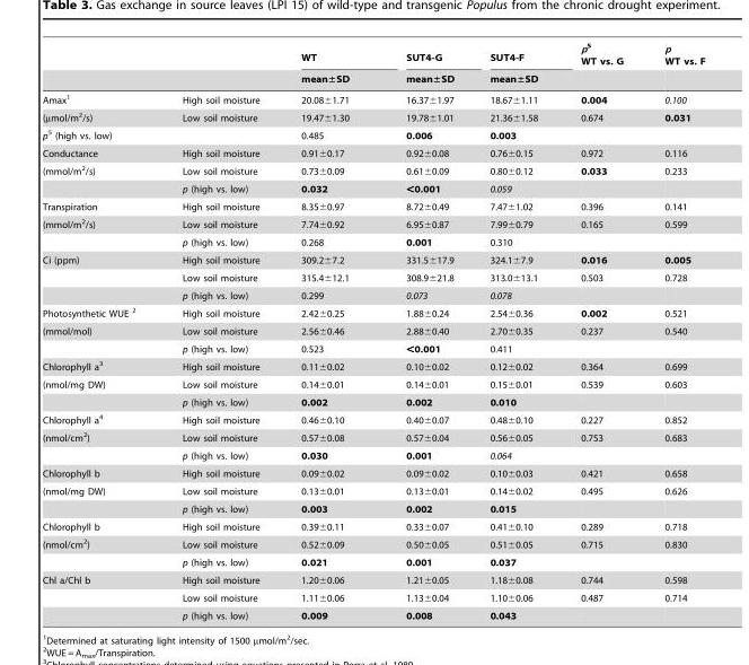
<table><thead><tr><td rowspan="2"></td><td rowspan="2"></td><td rowspan="2">WT mean±SD</td><td rowspan="2">SUT4-G mean±SD</td><td rowspan="2">SUT4-F mean±SD</td><td rowspan="2">p5 WT vs. G</td><td rowspan="2">p WT vs. F</td></tr><tr></tr></thead><tbody><tr><td>Amax<sup>1</sup></td><td>High soil moisture</td><td>20.08±1.71</td><td>16.37±1.97</td><td>18.67±1.11</td><td>0.004</td><td>0.100</td></tr><tr><td>(µmol/m<sup>2</sup>/s)</td><td>Low soil moisture</td><td>19.47±1.30</td><td>19.78±1.01</td><td>21.36±1.58</td><td>0.674</td><td>0.031</td></tr><tr><td colspan="2">p5 (high vs. low)</td><td>0.485</td><td>0.006</td><td>0.003</td><td></td><td></td></tr><tr><td>Conductance</td><td>High soil moisture</td><td>0.91±0.17</td><td>0.92±0.08</td><td>0.76±0.15</td><td>0.972</td><td>0.116</td></tr><tr><td rowspan="2">(mmol/m<sup>2</sup>/s)</td><td>Low soil moisture</td><td>0.73±0.09</td><td>0.61±0.09</td><td>0.80±0.12</td><td>0.033</td><td>0.233</td></tr><tr><td>p (high vs. low)</td><td>0.032</td><td>&lt;0.001</td><td>0.059</td><td></td><td></td></tr><tr><td>Transpiration</td><td>High soil moisture</td><td>8.35±0.97</td><td>8.72±0.49</td><td>7.47±1.02</td><td>0.396</td><td>0.141</td></tr><tr><td rowspan="2">(mmol/m<sup>2</sup>/s)</td><td>Low soil moisture</td><td>7.74±0.92</td><td>6.95±0.87</td><td>7.99±0.79</td><td>0.165</td><td>0.599</td></tr><tr><td>p (high vs. low)</td><td>0.268</td><td>0.001</td><td>0.310</td><td></td><td></td></tr><tr><td rowspan="3">Ci (ppm)</td><td>High soil moisture</td><td>309.2±7.2</td><td>331.5±17.9</td><td>324.1±7.9</td><td>0.016</td><td>0.005</td></tr><tr><td>Low soil moisture</td><td>315.4±12.1</td><td>308.9±21.8</td><td>313.0±13.1</td><td>0.503</td><td>0.728</td></tr><tr><td>p (high vs. low)</td><td>0.299</td><td>0.073</td><td>0.078</td><td></td><td></td></tr><tr><td>Photosynthetic WUE 2</td><td>High soil moisture</td><td>2.42±0.25</td><td>1.88±0.24</td><td>2.54±0.36</td><td>0.002</td><td>0.521</td></tr><tr><td rowspan="2">(mmol/mol)</td><td>Low soil moisture</td><td>2.56±0.46</td><td>2.88±0.40</td><td>2.70±0.35</td><td>0.237</td><td>0.540</td></tr><tr><td>p (high vs. low)</td><td>0.523</td><td>&lt;0.001</td><td>0.411</td><td></td><td></td></tr><tr><td>Chlorophyll a<sup>3</sup></td><td>High soil moisture</td><td>0.11±0.02</td><td>0.10±0.02</td><td>0.12±0.02</td><td>0.364</td><td>0.699</td></tr><tr><td rowspan="2">(nmol/mg DW)</td><td>Low soil moisture</td><td>0.14±0.01</td><td>0.14±0.01</td><td>0.15±0.01</td><td>0.539</td><td>0.603</td></tr><tr><td>p (high vs. low)</td><td>0.002</td><td>0.002</td><td>0.010</td><td></td><td></td></tr><tr><td>Chlorophyll a<sup>4</sup></td><td>High soil moisture</td><td>0.46±0.10</td><td>0.40±0.07</td><td>0.48±0.10</td><td>0.227</td><td>0.852</td></tr><tr><td rowspan="2">(nmol/cm<sup>2</sup>)</td><td>Low soil moisture</td><td>0.57±0.08</td><td>0.57±0.04</td><td>0.56±0.05</td><td>0.753</td><td>0.683</td></tr><tr><td>p (high vs. low)</td><td>0.030</td><td>0.001</td><td>0.064</td><td></td><td></td></tr><tr><td>Chlorophyll b</td><td>High soil moisture</td><td>0.09±0.02</td><td>0.09±0.02</td><td>0.10±0.03</td><td>0.421</td><td>0.658</td></tr><tr><td rowspan="2">(nmol/mg DW)</td><td>Low soil moisture</td><td>0.13±0.01</td><td>0.13±0.01</td><td>0.14±0.02</td><td>0.495</td><td>0.626</td></tr><tr><td>p (high vs. low)</td><td>0.003</td><td>0.002</td><td>0.015</td><td></td><td></td></tr><tr><td>Chlorophyll b</td><td>High soil moisture</td><td>0.39±0.11</td><td>0.33±0.07</td><td>0.41±0.10</td><td>0.289</td><td>0.718</td></tr><tr><td rowspan="2">(nmol/cm<sup>2</sup>)</td><td>Low soil moisture</td><td>0.52±0.09</td><td>0.50±0.05</td><td>0.51±0.05</td><td>0.715</td><td>0.830</td></tr><tr><td>p (high vs. low)</td><td>0.021</td><td>0.001</td><td>0.037</td><td></td><td></td></tr><tr><td rowspan="3">Chl a/Chl b</td><td>High soil moisture</td><td>1.20±0.06</td><td>1.21±0.05</td><td>1.18±0.08</td><td>0.744</td><td>0.598</td></tr><tr><td>Low soil moisture</td><td>1.11±0.06</td><td>1.13±0.04</td><td>1.10±0.06</td><td>0.487</td><td>0.714</td></tr><tr><td>p (high vs. low)</td><td>0.009</td><td>0.008</td><td>0.043</td><td></td><td></td></tr></tbody></table>